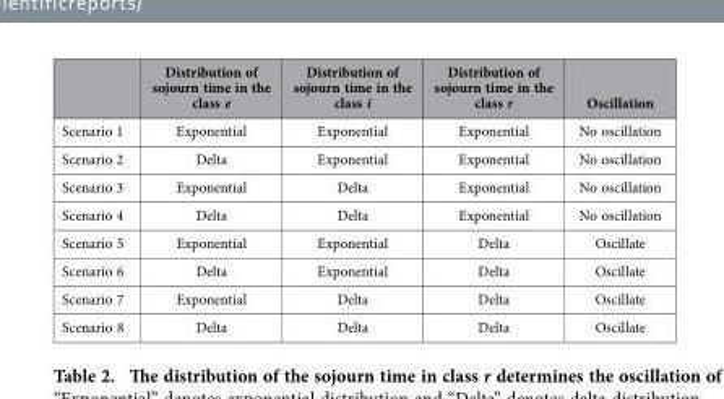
<table><thead><tr><td></td><td>Distribution of sojourn time in the class e</td><td>Distribution of sojourn time in the class i</td><td>Distribution of sojourn time in the class r</td><td>Oscillation</td></tr></thead><tbody><tr><td>Scenario 1</td><td>Exponential</td><td>Exponential</td><td>Exponential</td><td>No oscillation</td></tr><tr><td>Scenario 2</td><td>Delta</td><td>Exponential</td><td>Exponential</td><td>No oscillation</td></tr><tr><td>Scenario 3</td><td>Exponential</td><td>Delta</td><td>Exponential</td><td>No oscillation</td></tr><tr><td>Scenario 4</td><td>Delta</td><td>Delta</td><td>Exponential</td><td>No oscillation</td></tr><tr><td>Scenario 5</td><td>Exponential</td><td>Exponential</td><td>Delta</td><td>Oscillate</td></tr><tr><td>Scenario 6</td><td>Delta</td><td>Exponential</td><td>Delta</td><td>Oscillate</td></tr><tr><td>Scenario 7</td><td>Exponential</td><td>Delta</td><td>Delta</td><td>Oscillate</td></tr><tr><td>Scenario 8</td><td>Delta</td><td>Delta</td><td>Delta</td><td>Oscillate</td></tr></tbody></table>